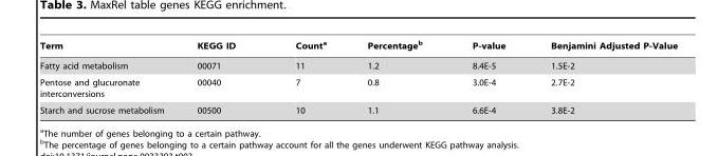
<table><thead><tr><td>Term</td><td>KEGG ID</td><td>Count<sup>a</sup></td><td>Percentage<sup>b</sup></td><td>P-value</td><td>Benjamini Adjusted P-Value</td></tr></thead><tbody><tr><td>Fatty acid metabolism</td><td>00071</td><td>11</td><td>1.2</td><td>8.4E-5</td><td>1.5E-2</td></tr><tr><td>Pentose and glucuronate interconversions</td><td>00040</td><td>7</td><td>0.8</td><td>3.0E-4</td><td>2.7E-2</td></tr><tr><td>Starch and sucrose metabolism</td><td>00500</td><td>10</td><td>1.1</td><td>6.6E-4</td><td>3.8E-2</td></tr></tbody></table>